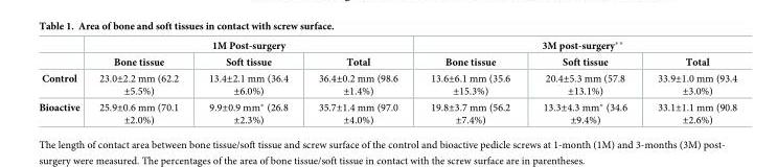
<table><thead><tr><td rowspan="2"></td><td colspan="3">1M Post-surgery</td><td colspan="3">3M post-surgery**</td></tr><tr><td>Bone tissue</td><td>Soft tissue</td><td>Total</td><td>Bone tissue</td><td>Soft tissue</td><td>Total</td></tr></thead><tbody><tr><td>Control</td><td>23.0±2.2 mm (62.2 ±5.5%)</td><td>13.4±2.1 mm (36.4 ±6.0%)</td><td>36.4±0.2 mm (98.6 ±1.4%)</td><td>13.6±6.1 mm (35.6 ±15.3%)</td><td>20.4±5.3 mm (57.8 ±13.1%)</td><td>33.9±1.0 mm (93.4 ±3.0%)</td></tr><tr><td>Bioactive</td><td>25.9±0.6 mm (70.1 ±2.0%)</td><td>9.9±0.9 mm* (26.8 ±2.3%)</td><td>35.7±1.4 mm (97.0 ±4.0%)</td><td>19.8±3.7 mm (56.2 ±7.4%)</td><td>13.3±4.3 mm* (34.6 ±9.4%)</td><td>33.1±1.1 mm (90.8 ±2.6%)</td></tr></tbody></table>